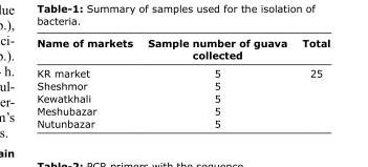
<table><thead><tr><td>Name of markets</td><td>Sample number of guava collected</td><td>Total</td></tr></thead><tbody><tr><td>KR market</td><td>5</td><td>25</td></tr><tr><td>Sheshmor</td><td>5</td><td></td></tr><tr><td>Kewatkhali</td><td>5</td><td></td></tr><tr><td>Meshubazar</td><td>5</td><td></td></tr><tr><td>Nutunbazar</td><td>5</td><td></td></tr></tbody></table>